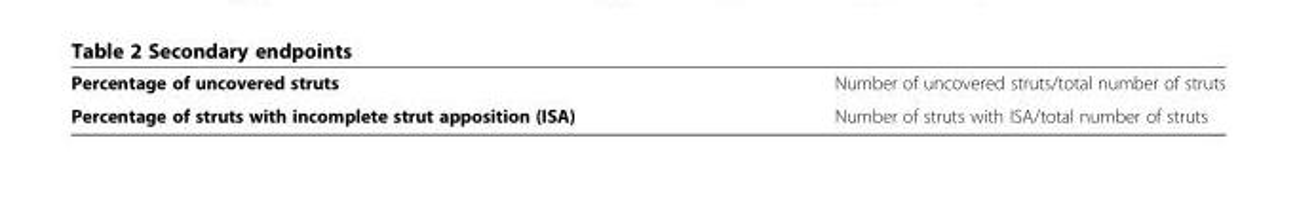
<table><tbody><tr><td>Percentage of uncovered struts</td><td>Number of uncovered struts/total number of struts</td></tr><tr><td>Percentage of struts with incomplete strut apposition (ISA)</td><td>Number of struts with ISA/total number of struts</td></tr></tbody></table>